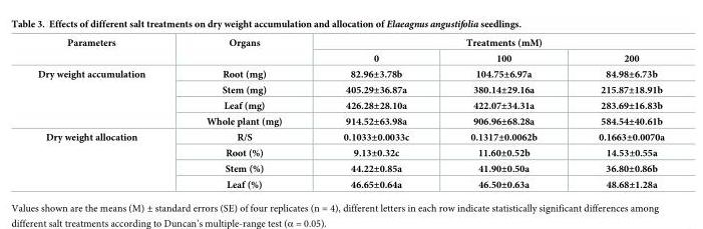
<table><thead><tr><td rowspan="2">Parameters</td><td rowspan="2">Organs</td><td colspan="3">Treatments (mM)</td></tr><tr><td>0</td><td>100</td><td>200</td></tr></thead><tbody><tr><td rowspan="4">Dry weight accumulation</td><td>Root (mg)</td><td>82.96±3.78b</td><td>104.75±6.97a</td><td>84.98±6.73b</td></tr><tr><td>Stem (mg)</td><td>405.29±36.87a</td><td>380.14±29.16a</td><td>215.87±18.91b</td></tr><tr><td>Leaf (mg)</td><td>426.28±28.10a</td><td>422.07±34.31a</td><td>283.69±16.83b</td></tr><tr><td>Whole plant (mg)</td><td>914.52±63.98a</td><td>906.96±68.28a</td><td>584.54±40.61b</td></tr><tr><td rowspan="4">Dry weight allocation</td><td>R/S</td><td>0.1033±0.0033c</td><td>0.1317±0.0062b</td><td>0.1663±0.0070a</td></tr><tr><td>Root (%)</td><td>9.13±0.32c</td><td>11.60±0.52b</td><td>14.53±0.55a</td></tr><tr><td>Stem (%)</td><td>44.22±0.85a</td><td>41.90±0.50a</td><td>36.80±0.86b</td></tr><tr><td>Leaf (%)</td><td>46.65±0.64a</td><td>46.50±0.63a</td><td>48.68±1.28a</td></tr></tbody></table>